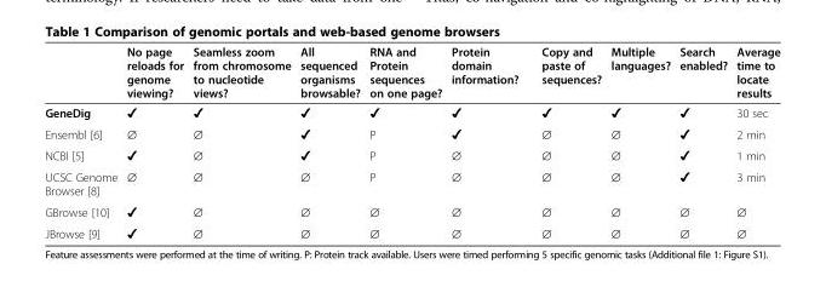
<table><thead><tr><td></td><td>No page reloads for genome viewing?</td><td>Seamless zoom from chromosome to nucleotide views?</td><td>All sequenced organisms browsable?</td><td>RNA and Protein sequences on one page?</td><td>Protein domain information?</td><td>Copy and paste of sequences?</td><td>Multiple languages?</td><td>Search enabled?</td><td>Average time to locate results</td></tr></thead><tbody><tr><td>GeneDig</td><td>✔</td><td>✔</td><td>✔</td><td>✔</td><td>✔</td><td>✔</td><td>✔</td><td>✔</td><td>30 sec</td></tr><tr><td>Ensembl [6]</td><td>∅</td><td>∅</td><td>✔</td><td>P</td><td>✔</td><td>∅</td><td>∅</td><td>✔</td><td>2 min</td></tr><tr><td>NCBI [5]</td><td>✔</td><td>∅</td><td>✔</td><td>P</td><td>∅</td><td>∅</td><td>∅</td><td>✔</td><td>1 min</td></tr><tr><td>UCSC Genome Browser [8]</td><td>∅</td><td>∅</td><td>∅</td><td>P</td><td>∅</td><td>∅</td><td>∅</td><td>✔</td><td>3 min</td></tr><tr><td>GBrowse [10]</td><td>✔</td><td>∅</td><td>∅</td><td>∅</td><td>∅</td><td>∅</td><td>∅</td><td>∅</td><td>∅</td></tr><tr><td>JBrowse [9]</td><td>✔</td><td>∅</td><td>∅</td><td>∅</td><td>∅</td><td>∅</td><td>∅</td><td>∅</td><td>∅</td></tr></tbody></table>